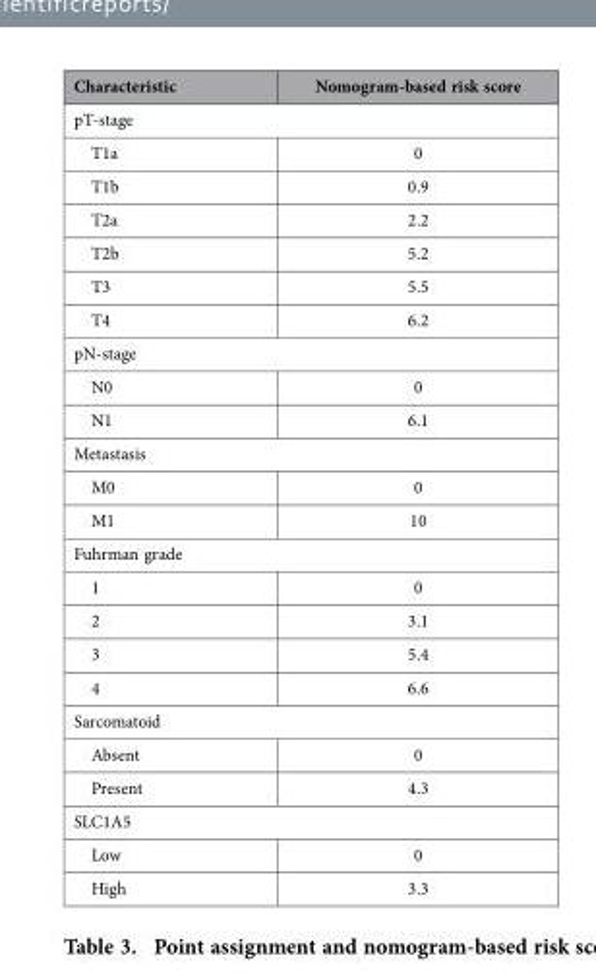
<table><thead><tr><td>Characteristic</td><td>Nomogram-based risk score</td></tr></thead><tbody><tr><td colspan="2">pT-stage</td></tr><tr><td>T1a</td><td>0</td></tr><tr><td>T1b</td><td>0.9</td></tr><tr><td>T2a</td><td>2.2</td></tr><tr><td>T2b</td><td>5.2</td></tr><tr><td>T3</td><td>5.5</td></tr><tr><td>T4</td><td>6.2</td></tr><tr><td colspan="2">pN-stage</td></tr><tr><td>N0</td><td>0</td></tr><tr><td>N1</td><td>6.1</td></tr><tr><td colspan="2">Metastasis</td></tr><tr><td>M0</td><td>0</td></tr><tr><td>M1</td><td>10</td></tr><tr><td colspan="2">Fuhrman grade</td></tr><tr><td>1</td><td>0</td></tr><tr><td>2</td><td>3.1</td></tr><tr><td>3</td><td>5.4</td></tr><tr><td>4</td><td>6.6</td></tr><tr><td colspan="2">Sarcomatoid</td></tr><tr><td>Absent</td><td>0</td></tr><tr><td>Present</td><td>4.3</td></tr><tr><td colspan="2">SLC1A5</td></tr><tr><td>Low</td><td>0</td></tr><tr><td>High</td><td>3.3</td></tr></tbody></table>